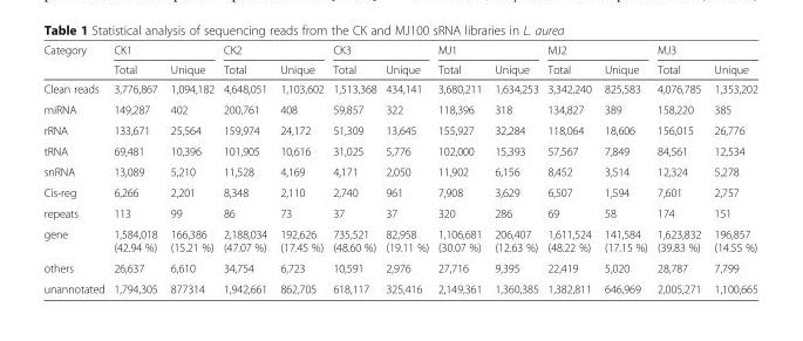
<table><thead><tr><td rowspan="2">Category</td><td colspan="2">CK1</td><td colspan="2">CK2</td><td colspan="2">CK3</td><td colspan="2">MJ1</td><td colspan="2">MJ2</td><td colspan="2">MJ3</td></tr><tr><td>Total</td><td>Unique</td><td>Total</td><td>Unique</td><td>Total</td><td>Unique</td><td>Total</td><td>Unique</td><td>Total</td><td>Unique</td><td>Total</td><td>Unique</td></tr></thead><tbody><tr><td>Clean reads</td><td>3,776,867</td><td>1,094,182</td><td>4,648,051</td><td>1,103,602</td><td>1,513,368</td><td>434,141</td><td>3,680,211</td><td>1,634,253</td><td>3,342,240</td><td>825,583</td><td>4,076,785</td><td>1,353,202</td></tr><tr><td>miRNA</td><td>149,287</td><td>402</td><td>200,761</td><td>408</td><td>59,857</td><td>322</td><td>118,396</td><td>318</td><td>134,827</td><td>389</td><td>158,220</td><td>385</td></tr><tr><td>rRNA</td><td>133,671</td><td>25,564</td><td>159,974</td><td>24,172</td><td>51,309</td><td>13,645</td><td>155,927</td><td>32,284</td><td>118,064</td><td>18,606</td><td>156,015</td><td>26,776</td></tr><tr><td>tRNA</td><td>69,481</td><td>10,396</td><td>101,905</td><td>10,616</td><td>31,025</td><td>5,776</td><td>102,000</td><td>15,393</td><td>57,567</td><td>7,849</td><td>84,561</td><td>12,534</td></tr><tr><td>snRNA</td><td>13,089</td><td>5,210</td><td>11,528</td><td>4,169</td><td>4,171</td><td>2,050</td><td>11,902</td><td>6,156</td><td>8,452</td><td>3,514</td><td>12,324</td><td>5,278</td></tr><tr><td>Cis-reg</td><td>6,266</td><td>2,201</td><td>8,348</td><td>2,110</td><td>2,740</td><td>961</td><td>7,908</td><td>3,629</td><td>6,507</td><td>1,594</td><td>7,601</td><td>2,757</td></tr><tr><td>repeats</td><td>113</td><td>99</td><td>86</td><td>73</td><td>37</td><td>37</td><td>320</td><td>286</td><td>69</td><td>58</td><td>174</td><td>151</td></tr><tr><td>gene</td><td>1,584,018 (42.94 %)</td><td>166,386 (15.21 %)</td><td>2,188,034 (47.07 %)</td><td>192,626 (17.45 %)</td><td>735,521 (48.60 %)</td><td>82,958 (19.11 %)</td><td>1,106,681 (30.07 %)</td><td>206,407 (12.63 %)</td><td>1,611,524 (48.22 %)</td><td>141,584 (17.15 %)</td><td>1,623,832 (39.83 %)</td><td>196,857 (14.55 %)</td></tr><tr><td>others</td><td>26,637</td><td>6,610</td><td>34,754</td><td>6,723</td><td>10,591</td><td>2,976</td><td>27,716</td><td>9,395</td><td>22,419</td><td>5,020</td><td>28,787</td><td>7,799</td></tr><tr><td>unannotated</td><td>1,794,305</td><td>877314</td><td>1,942,661</td><td>862,705</td><td>618,117</td><td>325,416</td><td>2,149,361</td><td>1,360,385</td><td>1,382,811</td><td>646,969</td><td>2,005,271</td><td>1,100,665</td></tr></tbody></table>